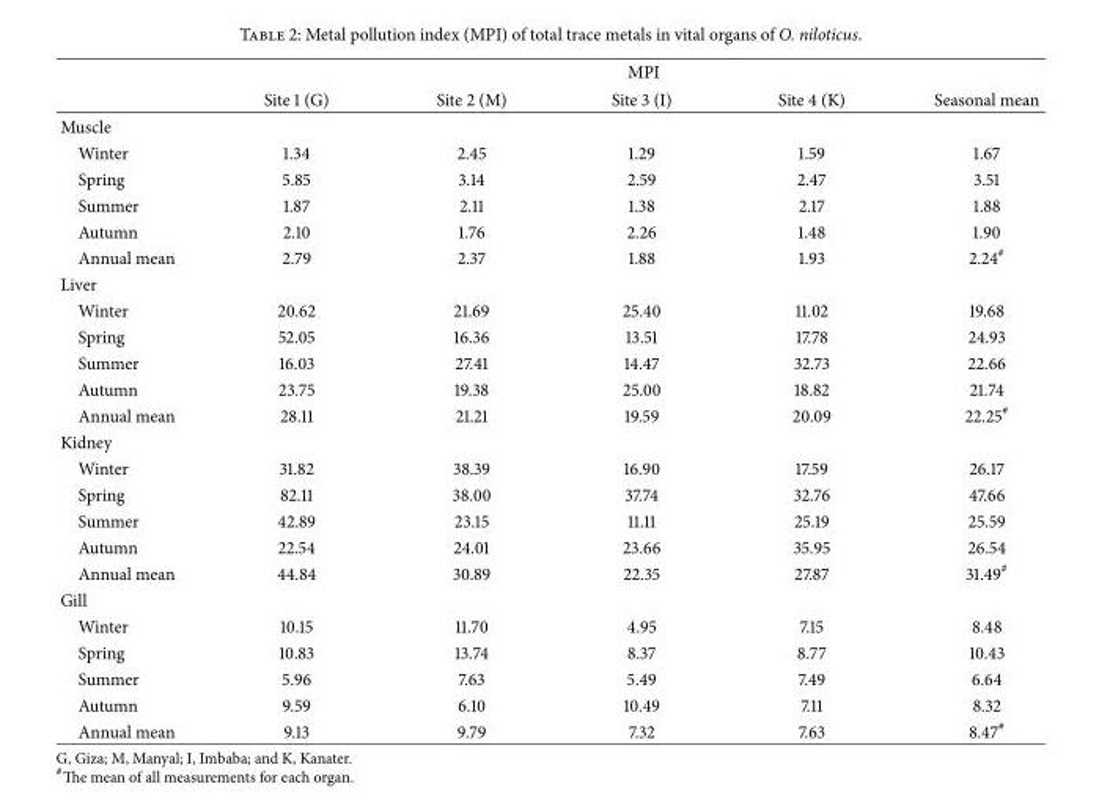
<table><thead><tr><td rowspan="2"></td><td colspan="5">MPI</td></tr><tr><td>Site 1 (G)</td><td>Site 2 (M)</td><td>Site 3 (I)</td><td>Site 4 (K)</td><td>Seasonal mean</td></tr></thead><tbody><tr><td colspan="6">Muscle</td></tr><tr><td>Winter</td><td>1.34</td><td>2.45</td><td>1.29</td><td>1.59</td><td>1.67</td></tr><tr><td>Spring</td><td>5.85</td><td>3.14</td><td>2.59</td><td>2.47</td><td>3.51</td></tr><tr><td>Summer</td><td>1.87</td><td>2.11</td><td>1.38</td><td>2.17</td><td>1.88</td></tr><tr><td>Autumn</td><td>2.10</td><td>1.76</td><td>2.26</td><td>1.48</td><td>1.90</td></tr><tr><td>Annual mean</td><td>2.79</td><td>2.37</td><td>1.88</td><td>1.93</td><td>2.24<sup>#</sup></td></tr><tr><td colspan="6">Liver</td></tr><tr><td>Winter</td><td>20.62</td><td>21.69</td><td>25.40</td><td>11.02</td><td>19.68</td></tr><tr><td>Spring</td><td>52.05</td><td>16.36</td><td>13.51</td><td>17.78</td><td>24.93</td></tr><tr><td>Summer</td><td>16.03</td><td>27.41</td><td>14.47</td><td>32.73</td><td>22.66</td></tr><tr><td>Autumn</td><td>23.75</td><td>19.38</td><td>25.00</td><td>18.82</td><td>21.74</td></tr><tr><td>Annual mean</td><td>28.11</td><td>21.21</td><td>19.59</td><td>20.09</td><td>22.25<sup>#</sup></td></tr><tr><td colspan="6">Kidney</td></tr><tr><td>Winter</td><td>31.82</td><td>38.39</td><td>16.90</td><td>17.59</td><td>26.17</td></tr><tr><td>Spring</td><td>82.11</td><td>38.00</td><td>37.74</td><td>32.76</td><td>47.66</td></tr><tr><td>Summer</td><td>42.89</td><td>23.15</td><td>11.11</td><td>25.19</td><td>25.59</td></tr><tr><td>Autumn</td><td>22.54</td><td>24.01</td><td>23.66</td><td>35.95</td><td>26.54</td></tr><tr><td>Annual mean</td><td>44.84</td><td>30.89</td><td>22.35</td><td>27.87</td><td>31.49<sup>#</sup></td></tr><tr><td colspan="6">Gill</td></tr><tr><td>Winter</td><td>10.15</td><td>11.70</td><td>4.95</td><td>7.15</td><td>8.48</td></tr><tr><td>Spring</td><td>10.83</td><td>13.74</td><td>8.37</td><td>8.77</td><td>10.43</td></tr><tr><td>Summer</td><td>5.96</td><td>7.63</td><td>5.49</td><td>7.49</td><td>6.64</td></tr><tr><td>Autumn</td><td>9.59</td><td>6.10</td><td>10.49</td><td>7.11</td><td>8.32</td></tr><tr><td>Annual mean</td><td>9.13</td><td>9.79</td><td>7.32</td><td>7.63</td><td>8.47<sup>#</sup></td></tr></tbody></table>